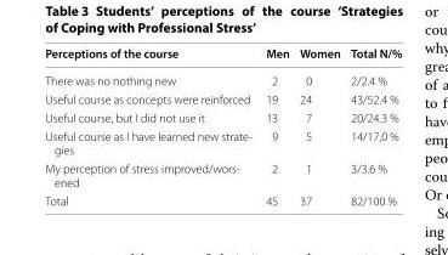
<table><thead><tr><td>Perceptions of the course</td><td>Men</td><td>Women</td><td>Total N/%</td></tr></thead><tbody><tr><td>There was no nothing new</td><td>2</td><td>0</td><td>2/2.4 %</td></tr><tr><td>Useful course as concepts were reinforced</td><td>19</td><td>24</td><td>43/52.4 %</td></tr><tr><td>Useful course, but I did not use it</td><td>13</td><td>7</td><td>20/24.3 %</td></tr><tr><td>Useful course as I have learned new strate- gies</td><td>9</td><td>5</td><td>14/17,0 %</td></tr><tr><td>My perception of stress improved/wors- ened</td><td>2</td><td>1</td><td>3/3.6 %</td></tr><tr><td>Total</td><td>45</td><td>37</td><td>82/100 %</td></tr></tbody></table>